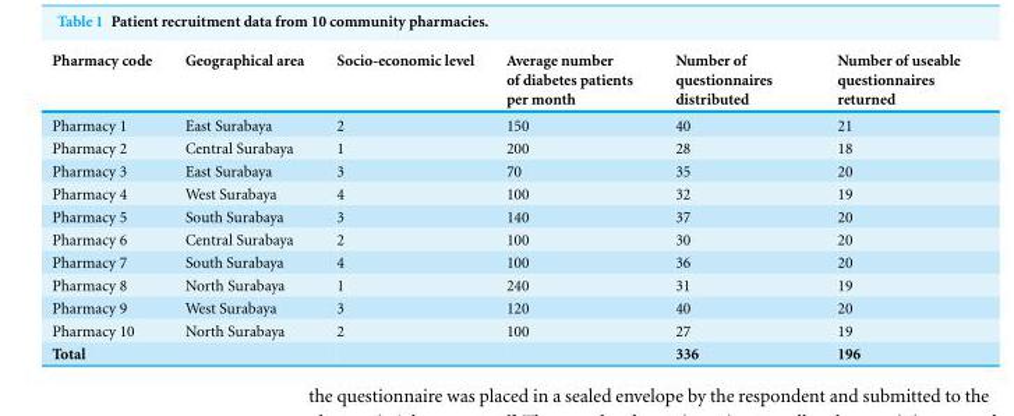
<table><thead><tr><td>Pharmacy code</td><td>Geographical area</td><td>Socio-economic level</td><td>Average number of diabetes patients per month</td><td>Number of questionnaires distributed</td><td>Number of useable questionnaires returned</td></tr></thead><tbody><tr><td>Pharmacy 1</td><td>East Surabaya</td><td>2</td><td>150</td><td>40</td><td>21</td></tr><tr><td>Pharmacy 2</td><td>Central Surabaya</td><td>1</td><td>200</td><td>28</td><td>18</td></tr><tr><td>Pharmacy 3</td><td>East Surabaya</td><td>3</td><td>70</td><td>35</td><td>20</td></tr><tr><td>Pharmacy 4</td><td>West Surabaya</td><td>4</td><td>100</td><td>32</td><td>19</td></tr><tr><td>Pharmacy 5</td><td>South Surabaya</td><td>3</td><td>140</td><td>37</td><td>20</td></tr><tr><td>Pharmacy 6</td><td>Central Surabaya</td><td>2</td><td>100</td><td>30</td><td>20</td></tr><tr><td>Pharmacy 7</td><td>South Surabaya</td><td>4</td><td>100</td><td>36</td><td>20</td></tr><tr><td>Pharmacy 8</td><td>North Surabaya</td><td>1</td><td>240</td><td>31</td><td>19</td></tr><tr><td>Pharmacy 9</td><td>West Surabaya</td><td>3</td><td>120</td><td>40</td><td>20</td></tr><tr><td>Pharmacy 10</td><td>North Surabaya</td><td>2</td><td>100</td><td>27</td><td>19</td></tr><tr><td>Total</td><td></td><td></td><td></td><td>336</td><td>196</td></tr></tbody></table>